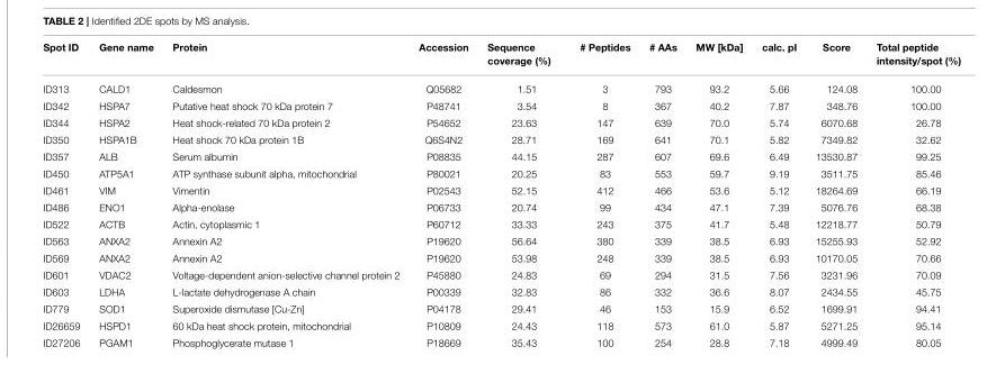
<table><thead><tr><td>Spot ID</td><td>Gene name</td><td>Protein</td><td>Accession</td><td>Sequence coverage (%)</td><td># Peptides</td><td># AAs</td><td>MW [kDa]</td><td>calc. pI</td><td>Score</td><td>Total peptide intensity/spot (%)</td></tr></thead><tbody><tr><td>ID313</td><td>CALD1</td><td>Caldesmon</td><td>Q05682</td><td>1.51</td><td>3</td><td>793</td><td>93.2</td><td>5.66</td><td>124.08</td><td>100.00</td></tr><tr><td>ID342</td><td>HSPA7</td><td>Putative heat shock 70 kDa protein 7</td><td>P48741</td><td>3.54</td><td>8</td><td>367</td><td>40.2</td><td>7.87</td><td>348.76</td><td>100.00</td></tr><tr><td>ID344</td><td>HSPA2</td><td>Heat shock-related 70 kDa protein 2</td><td>P54652</td><td>23.63</td><td>147</td><td>639</td><td>70.0</td><td>5.74</td><td>6070.68</td><td>26.78</td></tr><tr><td>ID350</td><td>HSPA1B</td><td>Heat shock 70 kDa protein 1B</td><td>Q6S4N2</td><td>28.71</td><td>169</td><td>641</td><td>70.1</td><td>5.82</td><td>7349.82</td><td>32.62</td></tr><tr><td>ID357</td><td>ALB</td><td>Serum albumin</td><td>P08835</td><td>44.15</td><td>287</td><td>607</td><td>69.6</td><td>6.49</td><td>13530.87</td><td>99.25</td></tr><tr><td>ID450</td><td>ATP5A1</td><td>ATP synthase subunit alpha, mitochondrial</td><td>P80021</td><td>20.25</td><td>83</td><td>553</td><td>59.7</td><td>9.19</td><td>3511.75</td><td>85.46</td></tr><tr><td>ID461</td><td>VIM</td><td>Vimentin</td><td>P02543</td><td>52.15</td><td>412</td><td>466</td><td>53.6</td><td>5.12</td><td>18264.69</td><td>66.19</td></tr><tr><td>ID486</td><td>ENO1</td><td>Alpha-enolase</td><td>P06733</td><td>20.74</td><td>99</td><td>434</td><td>47.1</td><td>7.39</td><td>5076.76</td><td>68.38</td></tr><tr><td>ID522</td><td>ACTB</td><td>Actin, cytoplasmic 1</td><td>P60712</td><td>33.33</td><td>243</td><td>375</td><td>41.7</td><td>5.48</td><td>12218.77</td><td>50.79</td></tr><tr><td>ID563</td><td>ANXA2</td><td>Annexin A2</td><td>P19620</td><td>56.64</td><td>380</td><td>339</td><td>38.5</td><td>6.93</td><td>15255.93</td><td>52.92</td></tr><tr><td>ID569</td><td>ANXA2</td><td>Annexin A2</td><td>P19620</td><td>53.98</td><td>248</td><td>339</td><td>38.5</td><td>6.93</td><td>10170.05</td><td>70.66</td></tr><tr><td>ID601</td><td>VDAC2</td><td>Voltage-dependent anion-selective channel protein 2</td><td>P45880</td><td>24.83</td><td>69</td><td>294</td><td>31.5</td><td>7.56</td><td>3231.96</td><td>70.09</td></tr><tr><td>ID603</td><td>LDHA</td><td>L-lactate dehydrogenase A chain</td><td>P00339</td><td>32.83</td><td>86</td><td>332</td><td>36.6</td><td>8.07</td><td>2434.55</td><td>45.75</td></tr><tr><td>ID779</td><td>SOD1</td><td>Superoxide dismutase [Cu-Zn]</td><td>P04178</td><td>29.41</td><td>46</td><td>153</td><td>15.9</td><td>6.52</td><td>1699.91</td><td>94.41</td></tr><tr><td>ID26659</td><td>HSPD1</td><td>60 kDa heat shock protein, mitochondrial</td><td>P10809</td><td>24.43</td><td>118</td><td>573</td><td>61.0</td><td>5.87</td><td>5271.25</td><td>95.14</td></tr><tr><td>ID27206</td><td>PGAM1</td><td>Phosphoglycerate mutase 1</td><td>P18669</td><td>35.43</td><td>100</td><td>254</td><td>28.8</td><td>7.18</td><td>4999.49</td><td>80.05</td></tr></tbody></table>